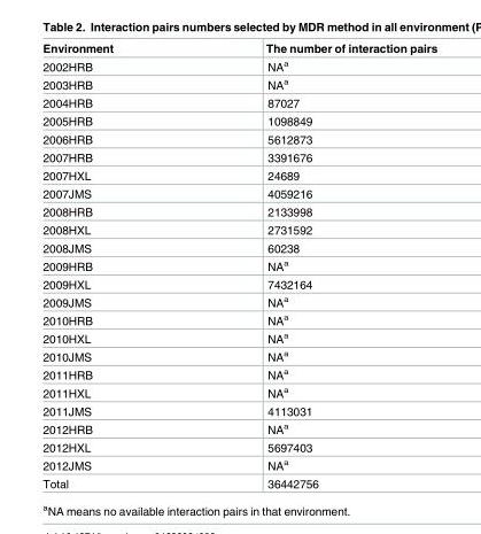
<table><thead><tr><td>Environment</td><td>The number of interaction pairs</td></tr></thead><tbody><tr><td>2002HRB</td><td>NA<sup>a</sup></td></tr><tr><td>2003HRB</td><td>NA<sup>a</sup></td></tr><tr><td>2004HRB</td><td>87027</td></tr><tr><td>2005HRB</td><td>1098849</td></tr><tr><td>2006HRB</td><td>5612873</td></tr><tr><td>2007HRB</td><td>3391676</td></tr><tr><td>2007HXL</td><td>24689</td></tr><tr><td>2007JMS</td><td>4059216</td></tr><tr><td>2008HRB</td><td>2133998</td></tr><tr><td>2008HXL</td><td>2731592</td></tr><tr><td>2008JMS</td><td>60238</td></tr><tr><td>2009HRB</td><td>NA<sup>a</sup></td></tr><tr><td>2009HXL</td><td>7432164</td></tr><tr><td>2009JMS</td><td>NA<sup>a</sup></td></tr><tr><td>2010HRB</td><td>NA<sup>a</sup></td></tr><tr><td>2010HXL</td><td>NA<sup>a</sup></td></tr><tr><td>2010JMS</td><td>NA<sup>a</sup></td></tr><tr><td>2011HRB</td><td>NA<sup>a</sup></td></tr><tr><td>2011HXL</td><td>NA<sup>a</sup></td></tr><tr><td>2011JMS</td><td>4113031</td></tr><tr><td>2012HRB</td><td>NA<sup>a</sup></td></tr><tr><td>2012HXL</td><td>5697403</td></tr><tr><td>2012JMS</td><td>NA<sup>a</sup></td></tr><tr><td>Total</td><td>36442756</td></tr></tbody></table>